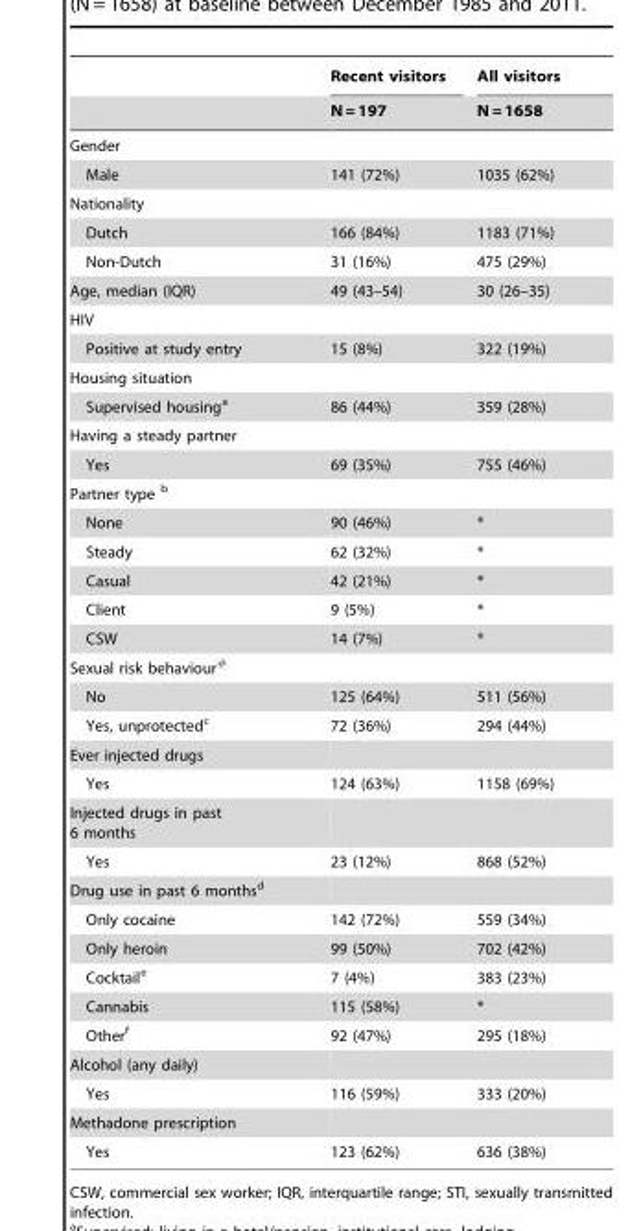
<table><thead><tr><td rowspan="2"></td><td rowspan="2">Recent visitors N = 197</td><td rowspan="2">All visitors N = 1658</td></tr><tr></tr></thead><tbody><tr><td colspan="3">Gender</td></tr><tr><td>Male</td><td>141 (72%)</td><td>1035 (62%)</td></tr><tr><td colspan="3">Nationality</td></tr><tr><td>Dutch</td><td>166 (84%)</td><td>1183 (71%)</td></tr><tr><td>Non-Dutch</td><td>31 (16%)</td><td>475 (29%)</td></tr><tr><td>Age, median (IQR)</td><td>49 (43–54)</td><td>30 (26–35)</td></tr><tr><td colspan="3">HIV</td></tr><tr><td>Positive at study entry</td><td>15 (8%)</td><td>322 (19%)</td></tr><tr><td colspan="3">Housing situation</td></tr><tr><td>Supervised housing<sup>a</sup></td><td>86 (44%)</td><td>359 (28%)</td></tr><tr><td colspan="3">Having a steady partner</td></tr><tr><td>Yes</td><td>69 (35%)</td><td>755 (46%)</td></tr><tr><td colspan="3">Partner type b</td></tr><tr><td>None</td><td>90 (46%)</td><td>*</td></tr><tr><td>Steady</td><td>62 (32%)</td><td>*</td></tr><tr><td>Casual</td><td>42 (21%)</td><td>*</td></tr><tr><td>Client</td><td>9 (5%)</td><td>*</td></tr><tr><td>CSW</td><td>14 (7%)</td><td>*</td></tr><tr><td colspan="3">Sexual risk behaviour#</td></tr><tr><td>No</td><td>125 (64%)</td><td>511 (56%)</td></tr><tr><td>Yes, unprotected<sup>c</sup></td><td>72 (36%)</td><td>294 (44%)</td></tr><tr><td colspan="3">Ever injected drugs</td></tr><tr><td>Yes</td><td>124 (63%)</td><td>1158 (69%)</td></tr><tr><td colspan="3">Injected drugs in past 6 months</td></tr><tr><td>Yes</td><td>23 (12%)</td><td>868 (52%)</td></tr><tr><td colspan="3">Drug use in past 6 months<sup>d</sup></td></tr><tr><td>Only cocaine</td><td>142 (72%)</td><td>559 (34%)</td></tr><tr><td>Only heroin</td><td>99 (50%)</td><td>702 (42%)</td></tr><tr><td>Cocktail<sup>e</sup></td><td>7 (4%)</td><td>383 (23%)</td></tr><tr><td>Cannabis</td><td>115 (58%)</td><td>*</td></tr><tr><td>Other<sup>f</sup></td><td>92 (47%)</td><td>295 (18%)</td></tr><tr><td colspan="3">Alcohol (any daily)</td></tr><tr><td>Yes</td><td>116 (59%)</td><td>333 (20%)</td></tr><tr><td colspan="3">Methadone prescription</td></tr><tr><td>Yes</td><td>123 (62%)</td><td>636 (38%)</td></tr></tbody></table>